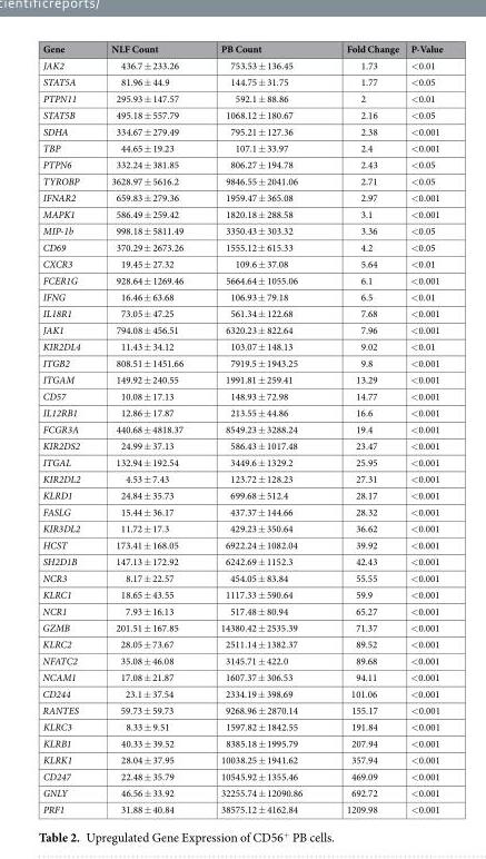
<table><thead><tr><td>Gene</td><td>NLF Count</td><td>PB Count</td><td>Fold Change</td><td>P-Value</td></tr></thead><tbody><tr><td>JAK2</td><td>436.7 ± 233.26</td><td>753.53 ± 136.45</td><td>1.73</td><td>&lt;0.01</td></tr><tr><td>STAT5A</td><td>81.96 ± 44.9</td><td>144.75 ± 31.75</td><td>1.77</td><td>&lt;0.05</td></tr><tr><td>PTPN11</td><td>295.93 ± 147.57</td><td>592.1 ± 88.86</td><td>2</td><td>&lt;0.01</td></tr><tr><td>STAT5B</td><td>495.18 ± 557.79</td><td>1068.12 ± 180.67</td><td>2.16</td><td>&lt;0.05</td></tr><tr><td>SDHA</td><td>334.67 ± 279.49</td><td>795.21 ± 127.36</td><td>2.38</td><td>&lt;0.001</td></tr><tr><td>TBP</td><td>44.65 ± 19.23</td><td>107.1 ± 33.97</td><td>2.4</td><td>&lt;0.001</td></tr><tr><td>PTPN6</td><td>332.24 ± 381.85</td><td>806.27 ± 194.78</td><td>2.43</td><td>&lt;0.05</td></tr><tr><td>TYROBP</td><td>3628.97 ± 5616.2</td><td>9846.55 ± 2041.06</td><td>2.71</td><td>&lt;0.05</td></tr><tr><td>IFNAR2</td><td>659.83 ± 279.36</td><td>1959.47 ± 365.08</td><td>2.97</td><td>&lt;0.001</td></tr><tr><td>MAPK1</td><td>586.49 ± 259.42</td><td>1820.18 ± 288.58</td><td>3.1</td><td>&lt;0.001</td></tr><tr><td>MIP-1b</td><td>998.18 ± 5811.49</td><td>3350.43 ± 303.32</td><td>3.36</td><td>&lt;0.05</td></tr><tr><td>CD69</td><td>370.29 ± 2673.26</td><td>1555.12 ± 615.33</td><td>4.2</td><td>&lt;0.05</td></tr><tr><td>CXCR3</td><td>19.45 ± 27.32</td><td>109.6 ± 37.08</td><td>5.64</td><td>&lt;0.01</td></tr><tr><td>FCER1G</td><td>928.64 ± 1269.46</td><td>5664.64 ± 1055.06</td><td>6.1</td><td>&lt;0.001</td></tr><tr><td>IFNG</td><td>16.46 ± 63.68</td><td>106.93 ± 79.18</td><td>6.5</td><td>&lt;0.01</td></tr><tr><td>IL18R1</td><td>73.05 ± 47.25</td><td>561.34 ± 122.68</td><td>7.68</td><td>&lt;0.001</td></tr><tr><td>JAK1</td><td>794.08 ± 456.51</td><td>6320.23 ± 822.64</td><td>7.96</td><td>&lt;0.001</td></tr><tr><td>KIR2DL4</td><td>11.43 ± 34.12</td><td>103.07 ± 148.13</td><td>9.02</td><td>&lt;0.01</td></tr><tr><td>ITGB2</td><td>808.51 ± 1451.66</td><td>7919.5 ± 1943.25</td><td>9.8</td><td>&lt;0.001</td></tr><tr><td>ITGAM</td><td>149.92 ± 240.55</td><td>1991.81 ± 259.41</td><td>13.29</td><td>&lt;0.001</td></tr><tr><td>CD57</td><td>10.08 ± 17.13</td><td>148.93 ± 72.98</td><td>14.77</td><td>&lt;0.001</td></tr><tr><td>IL12RB1</td><td>12.86 ± 17.87</td><td>213.55 ± 44.86</td><td>16.6</td><td>&lt;0.001</td></tr><tr><td>FCGR3A</td><td>440.68 ± 4818.37</td><td>8549.23 ± 3288.24</td><td>19.4</td><td>&lt;0.001</td></tr><tr><td>KIR2DS2</td><td>24.99 ± 37.13</td><td>586.43 ± 1017.48</td><td>23.47</td><td>&lt;0.001</td></tr><tr><td>ITGAL</td><td>132.94 ± 192.54</td><td>3449.6 ± 1329.2</td><td>25.95</td><td>&lt;0.001</td></tr><tr><td>KIR2DL2</td><td>4.53 ± 7.43</td><td>123.72 ± 128.23</td><td>27.31</td><td>&lt;0.001</td></tr><tr><td>KLRD1</td><td>24.84 ± 35.73</td><td>699.68 ± 512.4</td><td>28.17</td><td>&lt;0.001</td></tr><tr><td>FASLG</td><td>15.44 ± 36.17</td><td>437.37 ± 144.66</td><td>28.32</td><td>&lt;0.001</td></tr><tr><td>KIR3DL2</td><td>11.72 ± 17.3</td><td>429.23 ± 350.64</td><td>36.62</td><td>&lt;0.001</td></tr><tr><td>HCST</td><td>173.41 ± 168.05</td><td>6922.24 ± 1082.04</td><td>39.92</td><td>&lt;0.001</td></tr><tr><td>SH2D1B</td><td>147.13 ± 172.92</td><td>6242.69 ± 1152.3</td><td>42.43</td><td>&lt;0.001</td></tr><tr><td>NCR3</td><td>8.17 ± 22.57</td><td>454.05 ± 83.84</td><td>55.55</td><td>&lt;0.001</td></tr><tr><td>KLRC1</td><td>18.65 ± 43.55</td><td>1117.33 ± 590.64</td><td>59.9</td><td>&lt;0.001</td></tr><tr><td>NCR1</td><td>7.93 ± 16.13</td><td>517.48 ± 80.94</td><td>65.27</td><td>&lt;0.001</td></tr><tr><td>GZMB</td><td>201.51 ± 167.85</td><td>14380.42 ± 2535.39</td><td>71.37</td><td>&lt;0.001</td></tr><tr><td>KLRC2</td><td>28.05 ± 73.67</td><td>2511.14 ± 1382.37</td><td>89.52</td><td>&lt;0.001</td></tr><tr><td>NFATC2</td><td>35.08 ± 46.08</td><td>3145.71 ± 422.0</td><td>89.68</td><td>&lt;0.001</td></tr><tr><td>NCAM1</td><td>17.08 ± 21.87</td><td>1607.37 ± 306.53</td><td>94.11</td><td>&lt;0.001</td></tr><tr><td>CD244</td><td>23.1 ± 37.54</td><td>2334.19 ± 398.69</td><td>101.06</td><td>&lt;0.001</td></tr><tr><td>RANTES</td><td>59.73 ± 59.73</td><td>9268.96 ± 2870.14</td><td>155.17</td><td>&lt;0.001</td></tr><tr><td>KLRC3</td><td>8.33 ± 9.51</td><td>1597.82 ± 1842.55</td><td>191.84</td><td>&lt;0.001</td></tr><tr><td>KLRB1</td><td>40.33 ± 39.52</td><td>8385.18 ± 1995.79</td><td>207.94</td><td>&lt;0.001</td></tr><tr><td>KLRK1</td><td>28.04 ± 37.95</td><td>10038.25 ± 1941.62</td><td>357.94</td><td>&lt;0.001</td></tr><tr><td>CD247</td><td>22.48 ± 35.79</td><td>10545.92 ± 1355.46</td><td>469.09</td><td>&lt;0.001</td></tr><tr><td>GNLY</td><td>46.56 ± 33.92</td><td>32255.74 ± 12090.86</td><td>692.72</td><td>&lt;0.001</td></tr><tr><td>PRF1</td><td>31.88 ± 40.84</td><td>38575.12 ± 4162.84</td><td>1209.98</td><td>&lt;0.001</td></tr></tbody></table>